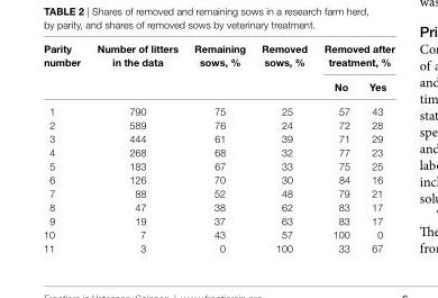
<table><thead><tr><td rowspan="2">Parity number</td><td rowspan="2">number of litters in the data</td><td rowspan="2">remaining sows, %</td><td rowspan="2">removed sows, %</td><td colspan="2">removed after treatment, %</td></tr><tr><td>no</td><td>Yes</td></tr></thead><tbody><tr><td>1</td><td>790</td><td>75</td><td>25</td><td>57</td><td>43</td></tr><tr><td>2</td><td>589</td><td>76</td><td>24</td><td>72</td><td>28</td></tr><tr><td>3</td><td>444</td><td>61</td><td>39</td><td>71</td><td>29</td></tr><tr><td>4</td><td>268</td><td>68</td><td>32</td><td>77</td><td>23</td></tr><tr><td>5</td><td>183</td><td>67</td><td>33</td><td>75</td><td>25</td></tr><tr><td>6</td><td>126</td><td>70</td><td>30</td><td>84</td><td>16</td></tr><tr><td>7</td><td>88</td><td>52</td><td>48</td><td>79</td><td>21</td></tr><tr><td>8</td><td>47</td><td>38</td><td>62</td><td>83</td><td>17</td></tr><tr><td>9</td><td>19</td><td>37</td><td>63</td><td>83</td><td>17</td></tr><tr><td>10</td><td>7</td><td>43</td><td>57</td><td>100</td><td>0</td></tr><tr><td>11</td><td>3</td><td>0</td><td>100</td><td>33</td><td>67</td></tr></tbody></table>